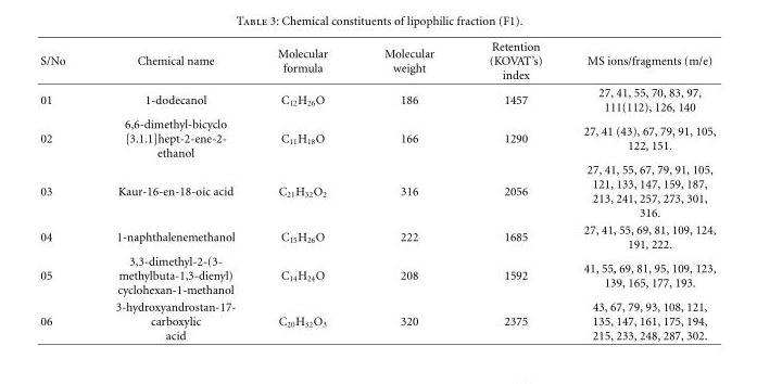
<table><thead><tr><td>S/No</td><td>Chemical name</td><td>Molecular formula</td><td>Molecular weight</td><td>Retention (KOVAT’s) index</td><td>MS ions/fragments (m/e)</td></tr></thead><tbody><tr><td>01</td><td>1-dodecanol</td><td>C<sub>12</sub>H<sub>26</sub>O</td><td>186</td><td>1457</td><td>27, 41, 55, 70, 83, 97, 111(112), 126, 140</td></tr><tr><td>02</td><td>6,6-dimethyl-bicyclo [3.1.1]hept-2-ene-2- ethanol</td><td>C<sub>11</sub>H<sub>18</sub>O</td><td>166</td><td>1290</td><td>27, 41 (43), 67, 79, 91, 105, 122, 151.</td></tr><tr><td>03</td><td>Kaur-16-en-18-oic acid</td><td>C<sub>21</sub>H<sub>32</sub>O<sub>2</sub></td><td>316</td><td>2056</td><td>27, 41, 55, 67, 79, 91, 105, 121, 133, 147, 159, 187, 213, 241, 257, 273, 301, 316.</td></tr><tr><td>04</td><td>1-naphthalenemethanol</td><td>C<sub>15</sub>H<sub>26</sub>O</td><td>222</td><td>1685</td><td>27, 41, 55, 69, 81, 109, 124, 191, 222.</td></tr><tr><td>05</td><td>3,3-dimethyl-2-(3- methylbuta-1,3-dienyl) cyclohexan-1-methanol</td><td>C<sub>14</sub>H<sub>24</sub>O</td><td>208</td><td>1592</td><td>41, 55, 69, 81, 95, 109, 123, 139, 165, 177, 193.</td></tr><tr><td>06</td><td>3-hydroxyandrostan-17- carboxylic acid</td><td>C<sub>20</sub>H<sub>32</sub>O<sub>3</sub></td><td>320</td><td>2375</td><td>43, 67, 79, 93, 108, 121, 135, 147, 161, 175, 194, 215, 233, 248, 287, 302.</td></tr></tbody></table>